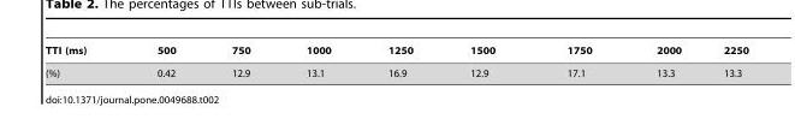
<table><thead><tr><td>TTI (ms)</td><td>500</td><td>750</td><td>1000</td><td>1250</td><td>1500</td><td>1750</td><td>2000</td><td>2250</td></tr></thead><tbody><tr><td>(%)</td><td>0.42</td><td>12.9</td><td>13.1</td><td>16.9</td><td>12.9</td><td>17.1</td><td>13.3</td><td>13.3</td></tr></tbody></table>